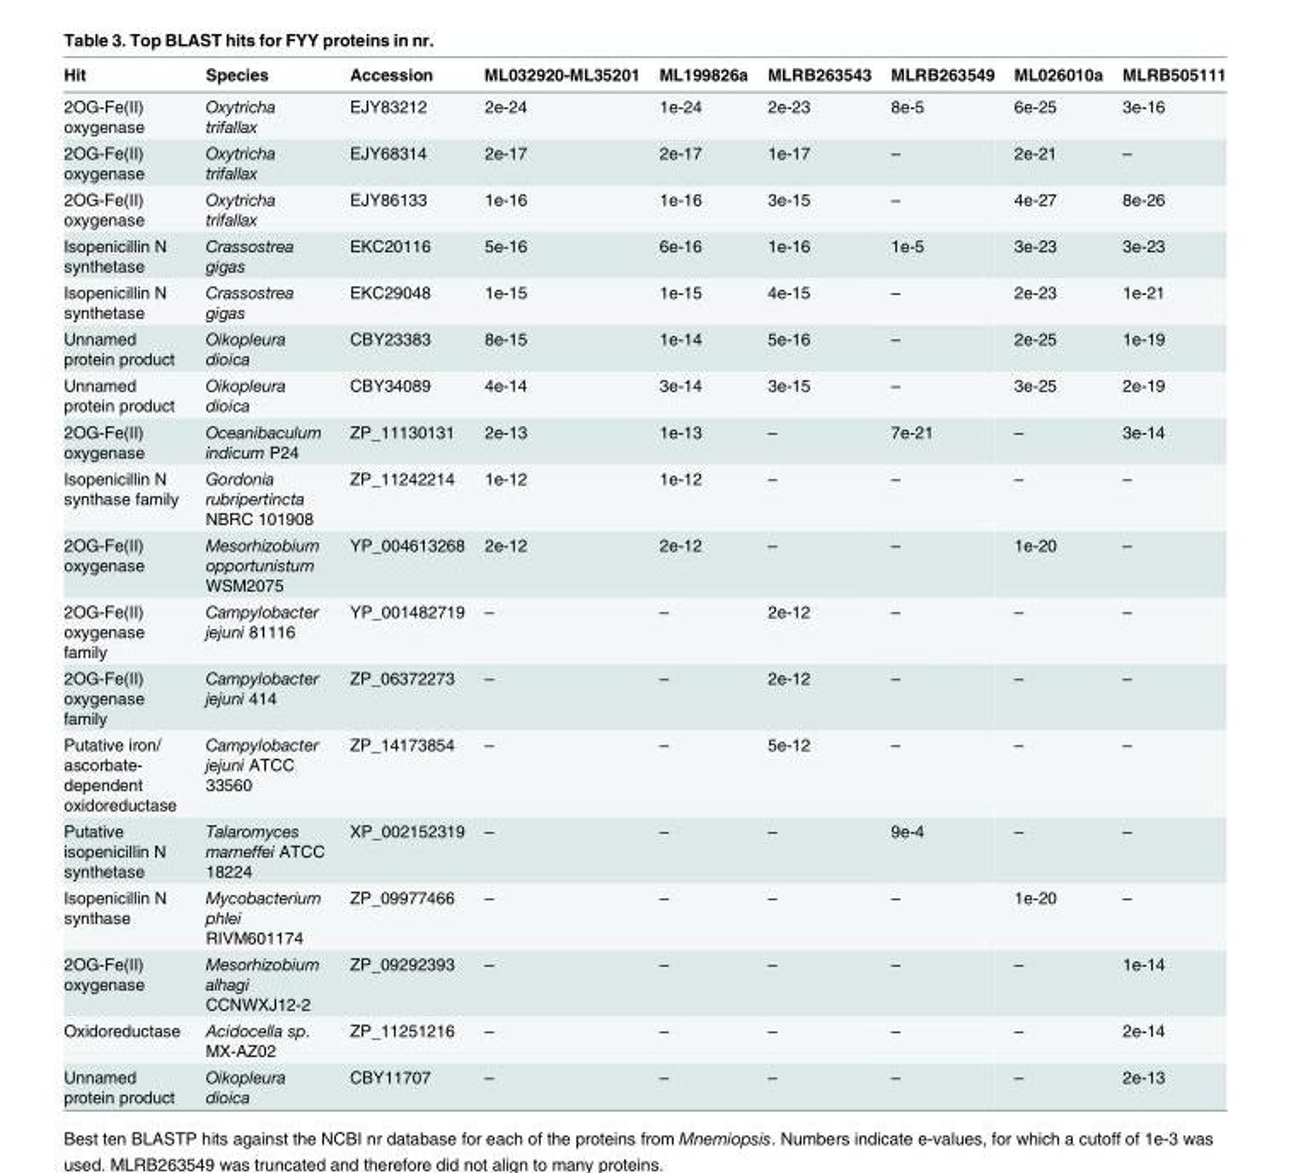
<table><thead><tr><td>Hit</td><td>Species</td><td>Accession</td><td>ML032920-ML35201</td><td>ML199826a</td><td>MLRB263543</td><td>MLRB263549</td><td>ML026010a</td><td>MLRB505111</td></tr></thead><tbody><tr><td>2OG-Fe(II) oxygenase</td><td>Oxytricha trifallax</td><td>EJY83212</td><td>2e-24</td><td>1e-24</td><td>2e-23</td><td>8e-5</td><td>6e-25</td><td>3e-16</td></tr><tr><td>2OG-Fe(II) oxygenase</td><td>Oxytricha trifallax</td><td>EJY68314</td><td>2e-17</td><td>2e-17</td><td>1e-17</td><td>–</td><td>2e-21</td><td>–</td></tr><tr><td>2OG-Fe(II) oxygenase</td><td>Oxytricha trifallax</td><td>EJY86133</td><td>1e-16</td><td>1e-16</td><td>3e-15</td><td>–</td><td>4e-27</td><td>8e-26</td></tr><tr><td>Isopenicillin N synthetase</td><td>Crassostrea gigas</td><td>EKC20116</td><td>5e-16</td><td>6e-16</td><td>1e-16</td><td>1e-5</td><td>3e-23</td><td>3e-23</td></tr><tr><td>Isopenicillin N synthetase</td><td>Crassostrea gigas</td><td>EKC29048</td><td>1e-15</td><td>1e-15</td><td>4e-15</td><td>–</td><td>2e-23</td><td>1e-21</td></tr><tr><td>Unnamed protein product</td><td>Oikopleura dioica</td><td>CBY23383</td><td>8e-15</td><td>1e-14</td><td>5e-16</td><td>–</td><td>2e-25</td><td>1e-19</td></tr><tr><td>Unnamed protein product</td><td>Oikopleura dioica</td><td>CBY34089</td><td>4e-14</td><td>3e-14</td><td>3e-15</td><td>–</td><td>3e-25</td><td>2e-19</td></tr><tr><td>2OG-Fe(II) oxygenase</td><td>Oceanibaculum indicum P24</td><td>ZP_11130131</td><td>2e-13</td><td>1e-13</td><td>–</td><td>7e-21</td><td>–</td><td>3e-14</td></tr><tr><td>Isopenicillin N synthase family</td><td>Gordonia rubripertincta NBRC 101908</td><td>ZP_11242214</td><td>1e-12</td><td>1e-12</td><td>–</td><td>–</td><td>–</td><td>–</td></tr><tr><td>2OG-Fe(II) oxygenase</td><td>Mesorhizobium opportunistum WSM2075</td><td>YP_004613268</td><td>2e-12</td><td>2e-12</td><td>–</td><td>–</td><td>1e-20</td><td>–</td></tr><tr><td>2OG-Fe(II) oxygenase family</td><td>Campylobacter jejuni 81116</td><td>YP_001482719</td><td>–</td><td>–</td><td>2e-12</td><td>–</td><td>–</td><td>–</td></tr><tr><td>2OG-Fe(II) oxygenase family</td><td>Campylobacter jejuni 414</td><td>ZP_06372273</td><td>–</td><td>–</td><td>2e-12</td><td>–</td><td>–</td><td>–</td></tr><tr><td>Putative iron/ ascorbate- dependent oxidoreductase</td><td>Campylobacter jejuni ATCC 33560</td><td>ZP_14173854</td><td>–</td><td>–</td><td>5e-12</td><td>–</td><td>–</td><td>–</td></tr><tr><td>Putative isopenicillin N synthetase</td><td>Talaromyces marneffei ATCC 18224</td><td>XP_002152319</td><td>–</td><td>–</td><td>–</td><td>9e-4</td><td>–</td><td>–</td></tr><tr><td>Isopenicillin N synthase</td><td>Mycobacterium phlei RIVM601174</td><td>ZP_09977466</td><td>–</td><td>–</td><td>–</td><td>–</td><td>1e-20</td><td>–</td></tr><tr><td>2OG-Fe(II) oxygenase</td><td>Mesorhizobium alhagi CCNWXJ12-2</td><td>ZP_09292393</td><td>–</td><td>–</td><td>–</td><td>–</td><td>–</td><td>1e-14</td></tr><tr><td>Oxidoreductase</td><td>Acidocella sp. MX-AZ02</td><td>ZP_11251216</td><td>–</td><td>–</td><td>–</td><td>–</td><td>–</td><td>2e-14</td></tr><tr><td>Unnamed protein product</td><td>Oikopleura dioica</td><td>CBY11707</td><td>–</td><td>–</td><td>–</td><td>–</td><td>–</td><td>2e-13</td></tr></tbody></table>